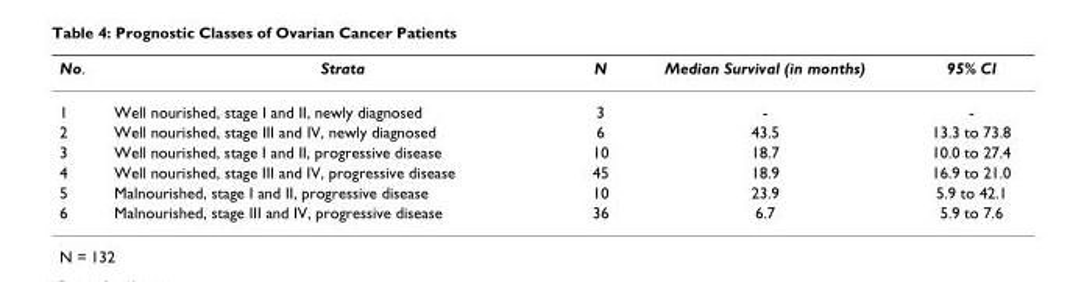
<table><thead><tr><td>No.</td><td>Strata</td><td>N</td><td>Median Survival (in months)</td><td>95% CI</td></tr></thead><tbody><tr><td>1</td><td>Well nourished, stage I and II, newly diagnosed</td><td>3</td><td>-</td><td>-</td></tr><tr><td>2</td><td>Well nourished, stage III and IV, newly diagnosed</td><td>6</td><td>43.5</td><td>13.3 to 73.8</td></tr><tr><td>3</td><td>Well nourished, stage I and II, progressive disease</td><td>10</td><td>18.7</td><td>10.0 to 27.4</td></tr><tr><td>4</td><td>Well nourished, stage III and IV, progressive disease</td><td>45</td><td>18.9</td><td>16.9 to 21.0</td></tr><tr><td>5</td><td>Malnourished, stage I and II, progressive disease</td><td>10</td><td>23.9</td><td>5.9 to 42.1</td></tr><tr><td>6</td><td>Malnourished, stage III and IV, progressive disease</td><td>36</td><td>6.7</td><td>5.9 to 7.6</td></tr></tbody></table>